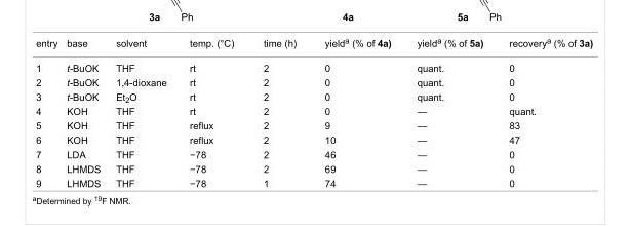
<table><tbody><tr><td>entry</td><td>base</td><td>solvent</td><td>temp. (°C)</td><td>time (h)</td><td>yield<sup>a</sup> (% of 4a)</td><td>yield<sup>a</sup> (% of 5a)</td><td>recovery<sup>a</sup> (% of 3a)</td></tr><tr><td>1</td><td>t-BuOK</td><td>THF</td><td>rt</td><td>2</td><td>0</td><td>quant.</td><td>0</td></tr><tr><td>2</td><td>t-BuOK</td><td>1,4-dioxane</td><td>rt</td><td>2</td><td>0</td><td>quant.</td><td>0</td></tr><tr><td>3</td><td>t-BuOK</td><td>Et<sub>2</sub>O</td><td>rt</td><td>2</td><td>0</td><td>quant.</td><td>0</td></tr><tr><td>4</td><td>KOH</td><td>THF</td><td>rt</td><td>2</td><td>0</td><td>—</td><td>quant.</td></tr><tr><td>5</td><td>KOH</td><td>THF</td><td>reflux</td><td>2</td><td>9</td><td>—</td><td>83</td></tr><tr><td>6</td><td>KOH</td><td>THF</td><td>reflux</td><td>2</td><td>10</td><td>—</td><td>47</td></tr><tr><td>7</td><td>LDA</td><td>THF</td><td>−78</td><td>2</td><td>46</td><td>—</td><td>0</td></tr><tr><td>8</td><td>LHMDS</td><td>THF</td><td>−78</td><td>2</td><td>69</td><td>—</td><td>0</td></tr><tr><td>9</td><td>LHMDS</td><td>THF</td><td>−78</td><td>1</td><td>74</td><td>—</td><td>0</td></tr></tbody></table>